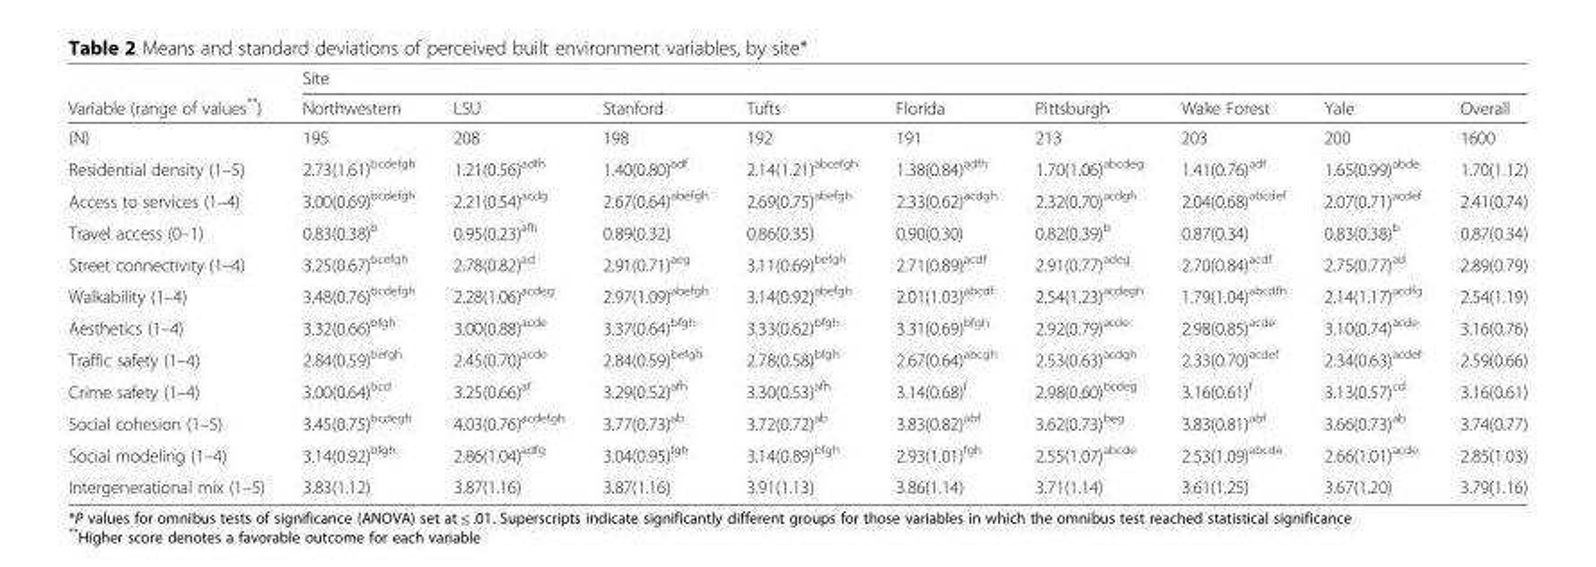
<table><thead><tr><td rowspan="2">Variable (range of values**)</td><td colspan="9">Site</td></tr><tr><td>Northwestern</td><td>LSU</td><td>Stanford</td><td>Tufts</td><td>Florida</td><td>Pittsburgh</td><td>Wake Forest</td><td>Yale</td><td>Overall</td></tr></thead><tbody><tr><td>(N)</td><td>195</td><td>208</td><td>198</td><td>192</td><td>191</td><td>213</td><td>203</td><td>200</td><td>1600</td></tr><tr><td>Residential density (1–5)</td><td>2.73(1.61)<sup>bcdefgh</sup></td><td>1.21(0.56)<sup>adfh</sup></td><td>1.40(0.80)<sup>adf</sup></td><td>2.14(1.21)<sup>abcefgh</sup></td><td>1.38(0.84)<sup>adfh</sup></td><td>1.70(1.06)<sup>abcdeg</sup></td><td>1.41(0.76)<sup>adf</sup></td><td>1.65(0.99)<sup>abde</sup></td><td>1.70(1.12)</td></tr><tr><td>Access to services (1–4)</td><td>3.00(0.69)<sup>bcdefgh</sup></td><td>2.21(0.54)<sup>acdg</sup></td><td>2.67(0.64)<sup>abefgh</sup></td><td>2.69(0.75)<sup>abefgh</sup></td><td>2.33(0.62)<sup>acdgh</sup></td><td>2.32(0.70)<sup>acdgh</sup></td><td>2.04(0.68)<sup>abcdef</sup></td><td>2.07(0.71)<sup>acdef</sup></td><td>2.41(0.74)</td></tr><tr><td>Travel access (0–1)</td><td>0.83(0.38)<sup>b</sup></td><td>0.95(0.23)<sup>afh</sup></td><td>0.89(0.32)</td><td>0.86(0.35)</td><td>0.90(0.30)</td><td>0.82(0.39)<sup>b</sup></td><td>0.87(0.34)</td><td>0.83(0.38)<sup>b</sup></td><td>0.87(0.34)</td></tr><tr><td>Street connectivity (1–4)</td><td>3.25(0.67)<sup>bcefgh</sup></td><td>2.78(0.82)<sup>ad</sup></td><td>2.91(0.71)<sup>aeg</sup></td><td>3.11(0.69)<sup>befgh</sup></td><td>2.71(0.89)<sup>acdf</sup></td><td>2.91(0.77)<sup>adeg</sup></td><td>2.70(0.84)<sup>acdf</sup></td><td>2.75(0.77)<sup>ad</sup></td><td>2.89(0.79)</td></tr><tr><td>Walkability (1–4)</td><td>3.48(0.76)<sup>bcdefgh</sup></td><td>2.28(1.06)<sup>acdeg</sup></td><td>2.97(1.09)<sup>abefgh</sup></td><td>3.14(0.92)<sup>abefgh</sup></td><td>2.01(1.03)<sup>abcdf</sup></td><td>2.54(1.23)<sup>acdegh</sup></td><td>1.79(1.04)<sup>abcdfh</sup></td><td>2.14(1.17)<sup>acdfg</sup></td><td>2.54(1.19)</td></tr><tr><td>Aesthetics (1–4)</td><td>3.32(0.66)<sup>bfgh</sup></td><td>3.00(0.88)<sup>acde</sup></td><td>3.37(0.64)<sup>bfgh</sup></td><td>3.33(0.62)<sup>bfgh</sup></td><td>3.31(0.69)<sup>bfgh</sup></td><td>2.92(0.79)<sup>acde</sup></td><td>2.98(0.85)<sup>acde</sup></td><td>3.10(0.74)<sup>acde</sup></td><td>3.16(0.76)</td></tr><tr><td>Traffic safety (1–4)</td><td>2.84(0.59)<sup>befgh</sup></td><td>2.45(0.70)<sup>acde</sup></td><td>2.84(0.59)<sup>befgh</sup></td><td>2.78(0.58)<sup>bfgh</sup></td><td>2.67(0.64)<sup>abcgh</sup></td><td>2.53(0.63)<sup>acdgh</sup></td><td>2.33(0.70)<sup>acdef</sup></td><td>2.34(0.63)<sup>acdef</sup></td><td>2.59(0.66)</td></tr><tr><td>Crime safety (1–4)</td><td>3.00(0.64)<sup>bcd</sup></td><td>3.25(0.66)<sup>af</sup></td><td>3.29(0.52)<sup>afh</sup></td><td>3.30(0.53)<sup>afh</sup></td><td>3.14(0.68)<sup>f</sup></td><td>2.98(0.60)<sup>bcdeg</sup></td><td>3.16(0.61)<sup>f</sup></td><td>3.13(0.57)<sup>cd</sup></td><td>3.16(0.61)</td></tr><tr><td>Social cohesion (1–5)</td><td>3.45(0.75)<sup>bcdegh</sup></td><td>4.03(0.76)<sup>acdefgh</sup></td><td>3.77(0.73)<sup>ab</sup></td><td>3.72(0.72)<sup>ab</sup></td><td>3.83(0.82)<sup>abf</sup></td><td>3.62(0.73)<sup>beg</sup></td><td>3.83(0.81)<sup>abf</sup></td><td>3.66(0.73)<sup>ab</sup></td><td>3.74(0.77)</td></tr><tr><td>Social modeling (1–4)</td><td>3.14(0.92)<sup>bfgh</sup></td><td>2.86(1.04)<sup>adfg</sup></td><td>3.04(0.95)<sup>fgh</sup></td><td>3.14(0.89)<sup>bfgh</sup></td><td>2.93(1.01)<sup>fgh</sup></td><td>2.55(1.07)<sup>abcde</sup></td><td>2.53(1.09)<sup>abcde</sup></td><td>2.66(1.01)<sup>acde</sup></td><td>2.85(1.03)</td></tr><tr><td>Intergenerational mix (1–5)</td><td>3.83(1.12)</td><td>3.87(1.16)</td><td>3.87(1.16)</td><td>3.91(1.13)</td><td>3.86(1.14)</td><td>3.71(1.14)</td><td>3.61(1.25)</td><td>3.67(1.20)</td><td>3.79(1.16)</td></tr></tbody></table>